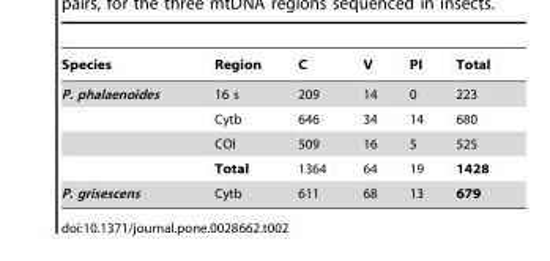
<table><thead><tr><td>Species</td><td>Region</td><td>C</td><td>V</td><td>PI</td><td>Total</td></tr></thead><tbody><tr><td rowspan="4">P. phalaenoides</td><td>16 s</td><td>209</td><td>14</td><td>0</td><td>223</td></tr><tr><td>Cytb</td><td>646</td><td>34</td><td>14</td><td>680</td></tr><tr><td>COI</td><td>509</td><td>16</td><td>5</td><td>525</td></tr><tr><td>Total</td><td>1364</td><td>64</td><td>19</td><td>1428</td></tr><tr><td>P. grisescens</td><td>Cytb</td><td>611</td><td>68</td><td>13</td><td>679</td></tr></tbody></table>